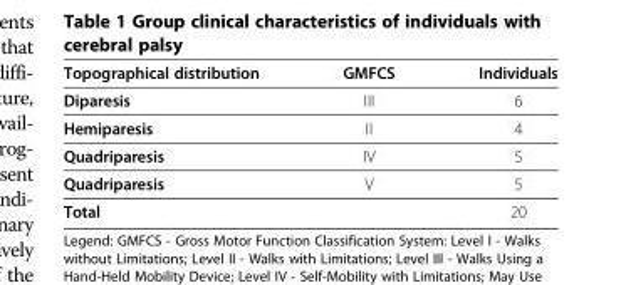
<table><thead><tr><td>Topographical distribution</td><td>GMFCS</td><td>Individuals</td></tr></thead><tbody><tr><td>Diparesis</td><td>III</td><td>6</td></tr><tr><td>Hemiparesis</td><td>II</td><td>4</td></tr><tr><td>Quadriparesis</td><td>IV</td><td>5</td></tr><tr><td>Quadriparesis</td><td>V</td><td>5</td></tr><tr><td>Total</td><td></td><td>20</td></tr></tbody></table>